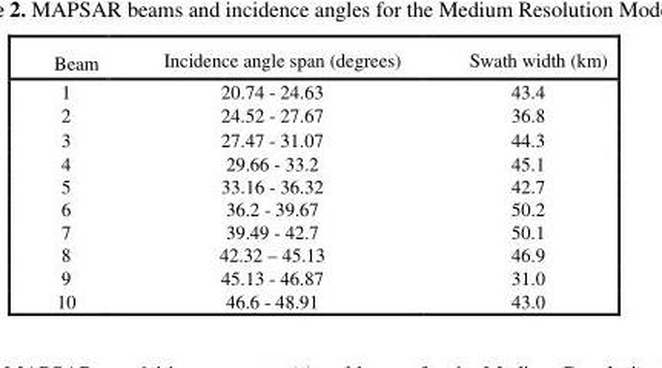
<table><thead><tr><td>Beam</td><td>Incidence angle span (degrees)</td><td>Swath width (km)</td></tr></thead><tbody><tr><td>1</td><td>20.74 - 24.63</td><td>43.4</td></tr><tr><td>2</td><td>24.52 - 27.67</td><td>36.8</td></tr><tr><td>3</td><td>27.47 - 31.07</td><td>44.3</td></tr><tr><td>4</td><td>29.66 - 33.2</td><td>45.1</td></tr><tr><td>5</td><td>33.16 - 36.32</td><td>42.7</td></tr><tr><td>6</td><td>36.2 - 39.67</td><td>50.2</td></tr><tr><td>7</td><td>39.49 - 42.7</td><td>50.1</td></tr><tr><td>8</td><td>42.32 – 45.13</td><td>46.9</td></tr><tr><td>9</td><td>45.13 - 46.87</td><td>31.0</td></tr><tr><td>10</td><td>46.6 - 48.91</td><td>43.0</td></tr></tbody></table>